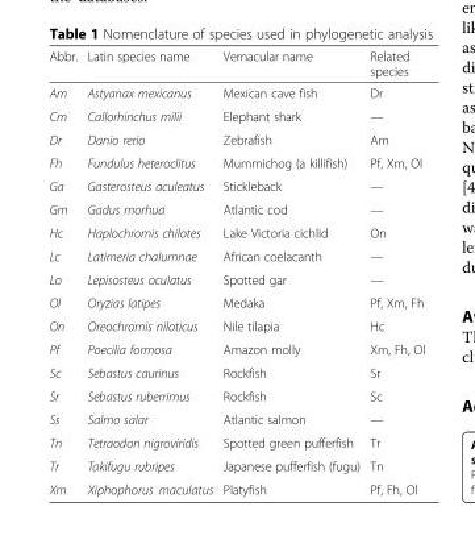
<table><thead><tr><td>Abbr.</td><td>Latin species name</td><td>Vernacular name</td><td>Related species</td></tr></thead><tbody><tr><td>Am</td><td>Astyanax mexicanus</td><td>Mexican cave fish</td><td>Dr</td></tr><tr><td>Cm</td><td>Callorhinchus milii</td><td>Elephant shark</td><td>—</td></tr><tr><td>Dr</td><td>Danio rerio</td><td>Zebrafish</td><td>Am</td></tr><tr><td>Fh</td><td>Fundulus heteroclitus</td><td>Mummichog (a killifish)</td><td>Pf, Xm, Ol</td></tr><tr><td>Ga</td><td>Gasterosteus aculeatus</td><td>Stickleback</td><td>—</td></tr><tr><td>Gm</td><td>Gadus morhua</td><td>Atlantic cod</td><td>—</td></tr><tr><td>Hc</td><td>Haplochromis chilotes</td><td>Lake Victoria cichlid</td><td>On</td></tr><tr><td>Lc</td><td>Latimeria chalumnae</td><td>African coelacanth</td><td>—</td></tr><tr><td>Lo</td><td>Lepisosteus oculatus</td><td>Spotted gar</td><td>—</td></tr><tr><td>Ol</td><td>Oryzias latipes</td><td>Medaka</td><td>Pf, Xm, Fh</td></tr><tr><td>On</td><td>Oreochromis niloticus</td><td>Nile tilapia</td><td>Hc</td></tr><tr><td>Pf</td><td>Poecilia formosa</td><td>Amazon molly</td><td>Xm, Fh, Ol</td></tr><tr><td>Sc</td><td>Sebastus caurinus</td><td>Rockfish</td><td>Sr</td></tr><tr><td>Sr</td><td>Sebastus ruberrimus</td><td>Rockfish</td><td>Sc</td></tr><tr><td>Ss</td><td>Salmo salar</td><td>Atlantic salmon</td><td>—</td></tr><tr><td>Tn</td><td>Tetraodon nigroviridis</td><td>Spotted green pufferfish</td><td>Tr</td></tr><tr><td>Tr</td><td>Takifugu rubripes</td><td>Japanese pufferfish (fugu)</td><td>Tn</td></tr><tr><td>Xm</td><td>Xiphophorus maculatus</td><td>Platyfish</td><td>Pf, Fh, Ol</td></tr></tbody></table>